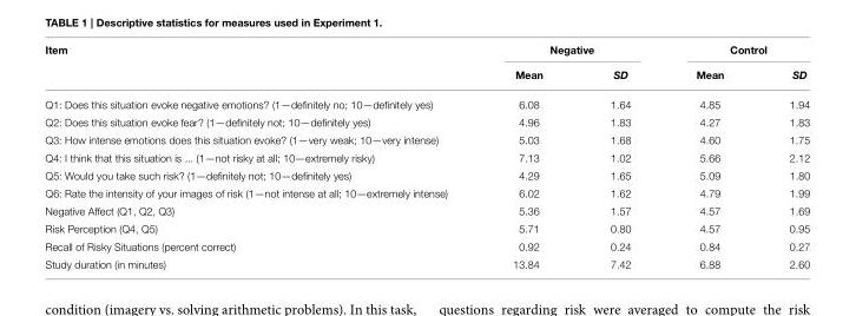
<table><thead><tr><td rowspan="2">Item</td><td colspan="2">Negative</td><td colspan="2">Control</td></tr><tr><td>Mean</td><td>SD</td><td>Mean</td><td>SD</td></tr></thead><tbody><tr><td>Q1: Does this situation evoke negative emotions? (1—definitely no; 10—definitely yes)</td><td>6.08</td><td>1.64</td><td>4.85</td><td>1.94</td></tr><tr><td>Q2: Does this situation evoke fear? (1—definitely not; 10—definitely yes)</td><td>4.96</td><td>1.83</td><td>4.27</td><td>1.83</td></tr><tr><td>Q3: How intense emotions does this situation evoke? (1—very weak; 10—very intense)</td><td>5.03</td><td>1.68</td><td>4.60</td><td>1.75</td></tr><tr><td>Q4: I think that this situation is ... (1—not risky at all; 10—extremely risky)</td><td>7.13</td><td>1.02</td><td>5.66</td><td>2.12</td></tr><tr><td>Q5: Would you take such risk? (1—definitely not; 10—definitely yes)</td><td>4.29</td><td>1.65</td><td>5.09</td><td>1.80</td></tr><tr><td>Q6: Rate the intensity of your images of risk (1—not intense at all; 10—extremely intense)</td><td>6.02</td><td>1.62</td><td>4.79</td><td>1.99</td></tr><tr><td>Negative Affect (Q1, Q2, Q3)</td><td>5.36</td><td>1.57</td><td>4.57</td><td>1.69</td></tr><tr><td>Risk Perception (Q4, Q5)</td><td>5.71</td><td>0.80</td><td>4.57</td><td>0.95</td></tr><tr><td>Recall of Risky Situations (percent correct)</td><td>0.92</td><td>0.24</td><td>0.84</td><td>0.27</td></tr><tr><td>Study duration (in minutes)</td><td>13.84</td><td>7.42</td><td>6.88</td><td>2.60</td></tr></tbody></table>